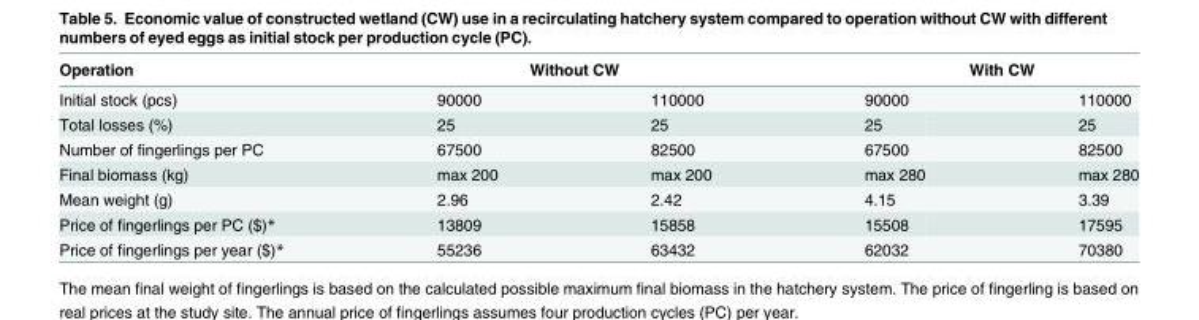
<table><thead><tr><td rowspan="2">Operation Initial stock (pcs)</td><td colspan="2">Without CW</td><td colspan="2">With CW</td></tr><tr><td>90000</td><td>110000</td><td>90000</td><td>110000</td></tr></thead><tbody><tr><td>Total losses (%)</td><td>25</td><td>25</td><td>25</td><td>25</td></tr><tr><td>Number of fingerlings per PC</td><td>67500</td><td>82500</td><td>67500</td><td>82500</td></tr><tr><td>Final biomass (kg)</td><td>max 200</td><td>max 200</td><td>max 280</td><td>max 280</td></tr><tr><td>Mean weight (g)</td><td>2.96</td><td>2.42</td><td>4.15</td><td>3.39</td></tr><tr><td>Price of fingerlings per PC ($)*</td><td>13809</td><td>15858</td><td>15508</td><td>17595</td></tr><tr><td>Price of fingerlings per year ($)*</td><td>55236</td><td>63432</td><td>62032</td><td>70380</td></tr></tbody></table>